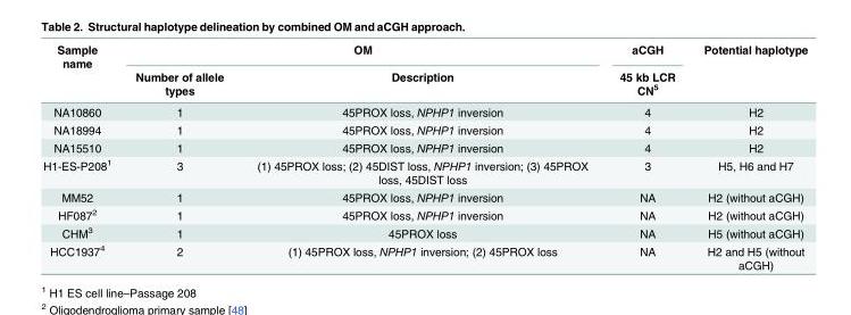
<table><thead><tr><td rowspan="2">Sample name</td><td colspan="2">OM</td><td rowspan="2">aCGH 45 kb LCR CN<sup>5</sup></td><td rowspan="2">Potential haplotype</td></tr><tr><td>Number of allele types</td><td>Description</td></tr></thead><tbody><tr><td>NA10860</td><td>1</td><td>45PROX loss, NPHP1 inversion</td><td>4</td><td>H2</td></tr><tr><td>NA18994</td><td>1</td><td>45PROX loss, NPHP1 inversion</td><td>4</td><td>H2</td></tr><tr><td>NA15510</td><td>1</td><td>45PROX loss, NPHP1 inversion</td><td>4</td><td>H2</td></tr><tr><td>H1-ES-P208<sup>1</sup></td><td>3</td><td>(1) 45PROX loss; (2) 45DIST loss, NPHP1 inversion; (3) 45PROX loss, 45DIST loss</td><td>3</td><td>H5, H6 and H7</td></tr><tr><td>MM52</td><td>1</td><td>45PROX loss, NPHP1 inversion</td><td>NA</td><td>H2 (without aCGH)</td></tr><tr><td>HF087<sup>2</sup></td><td>1</td><td>45PROX loss, NPHP1 inversion</td><td>NA</td><td>H2 (without aCGH)</td></tr><tr><td>CHM<sup>3</sup></td><td>1</td><td>45PROX loss</td><td>NA</td><td>H5 (without aCGH)</td></tr><tr><td>HCC1937<sup>4</sup></td><td>2</td><td>(1) 45PROX loss, NPHP1 inversion; (2) 45PROX loss</td><td>NA</td><td>H2 and H5 (without aCGH)</td></tr></tbody></table>